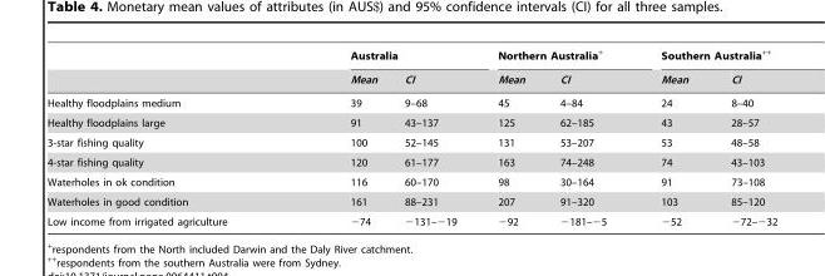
<table><thead><tr><td rowspan="2"></td><td colspan="2">Australia</td><td colspan="2">Northern Australia+</td><td colspan="2">Southern Australia++</td></tr><tr><td>Mean</td><td>CI</td><td>Mean</td><td>CI</td><td>Mean</td><td>CI</td></tr></thead><tbody><tr><td>Healthy floodplains medium</td><td>39</td><td>9–68</td><td>45</td><td>4–84</td><td>24</td><td>8–40</td></tr><tr><td>Healthy floodplains large</td><td>91</td><td>43–137</td><td>125</td><td>62–185</td><td>43</td><td>28–57</td></tr><tr><td>3-star fishing quality</td><td>100</td><td>52–145</td><td>131</td><td>53–207</td><td>53</td><td>48–58</td></tr><tr><td>4-star fishing quality</td><td>120</td><td>61–177</td><td>163</td><td>74–248</td><td>74</td><td>43–103</td></tr><tr><td>Waterholes in ok condition</td><td>116</td><td>60–170</td><td>98</td><td>30–164</td><td>91</td><td>73–108</td></tr><tr><td>Waterholes in good condition</td><td>161</td><td>88–231</td><td>207</td><td>91–320</td><td>103</td><td>85–120</td></tr><tr><td>Low income from irrigated agriculture</td><td>−74</td><td>−131–−19</td><td>−92</td><td>−181–−5</td><td>−52</td><td>−72–−32</td></tr></tbody></table>